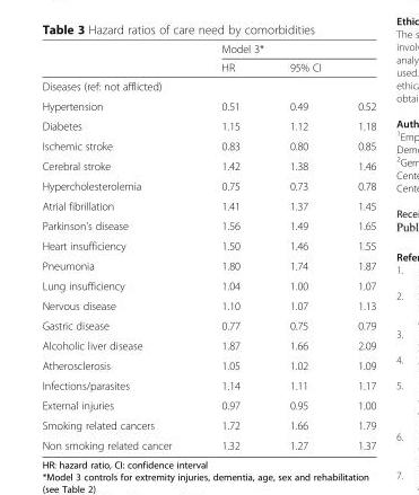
<table><thead><tr><td rowspan="3">Diseases (ref: not afflicted)</td><td colspan="3">Model 3*</td></tr><tr><td rowspan="2">HR</td><td colspan="2">95% CI</td></tr><tr><td></td><td></td></tr></thead><tbody><tr><td>Hypertension</td><td>0.51</td><td>0.49</td><td>0.52</td></tr><tr><td>Diabetes</td><td>1.15</td><td>1.12</td><td>1.18</td></tr><tr><td>Ischemic stroke</td><td>0.83</td><td>0.80</td><td>0.85</td></tr><tr><td>Cerebral stroke</td><td>1.42</td><td>1.38</td><td>1.46</td></tr><tr><td>Hypercholesterolemia</td><td>0.75</td><td>0.73</td><td>0.78</td></tr><tr><td>Atrial fibrillation</td><td>1.41</td><td>1.37</td><td>1.45</td></tr><tr><td>Parkinson&#x27;s disease</td><td>1.56</td><td>1.49</td><td>1.65</td></tr><tr><td>Heart insufficiency</td><td>1.50</td><td>1.46</td><td>1.55</td></tr><tr><td>Pneumonia</td><td>1.80</td><td>1.74</td><td>1.87</td></tr><tr><td>Lung insufficiency</td><td>1.04</td><td>1.00</td><td>1.07</td></tr><tr><td>Nervous disease</td><td>1.10</td><td>1.07</td><td>1.13</td></tr><tr><td>Gastric disease</td><td>0.77</td><td>0.75</td><td>0.79</td></tr><tr><td>Alcoholic liver disease</td><td>1.87</td><td>1.66</td><td>2.09</td></tr><tr><td>Atherosclerosis</td><td>1.05</td><td>1.02</td><td>1.09</td></tr><tr><td>Infections/parasites</td><td>1.14</td><td>1.11</td><td>1.17</td></tr><tr><td>External injuries</td><td>0.97</td><td>0.95</td><td>1.00</td></tr><tr><td>Smoking related cancers</td><td>1.72</td><td>1.66</td><td>1.79</td></tr><tr><td>Non smoking related cancer</td><td>1.32</td><td>1.27</td><td>1.37</td></tr></tbody></table>